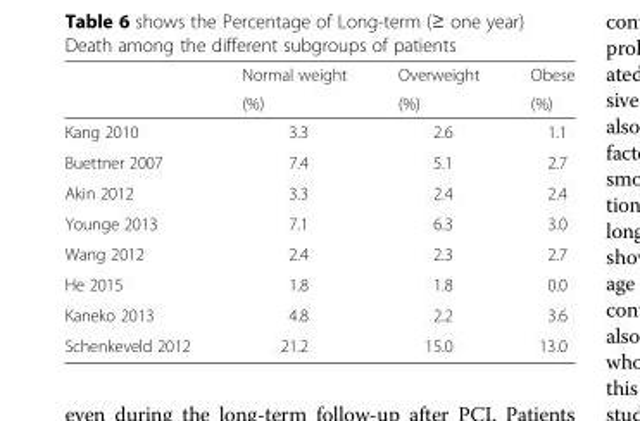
<table><thead><tr><td rowspan="2"></td><td rowspan="2">Normal weight (%)</td><td rowspan="2">Overweight (%)</td><td rowspan="2">Obese (%)</td></tr><tr></tr></thead><tbody><tr><td>Kang 2010</td><td>3.3</td><td>2.6</td><td>1.1</td></tr><tr><td>Buettner 2007</td><td>7.4</td><td>5.1</td><td>2.7</td></tr><tr><td>Akin 2012</td><td>3.3</td><td>2.4</td><td>2.4</td></tr><tr><td>Younge 2013</td><td>7.1</td><td>6.3</td><td>3.0</td></tr><tr><td>Wang 2012</td><td>2.4</td><td>2.3</td><td>2.7</td></tr><tr><td>He 2015</td><td>1.8</td><td>1.8</td><td>0.0</td></tr><tr><td>Kaneko 2013</td><td>4.8</td><td>2.2</td><td>3.6</td></tr><tr><td>Schenkeveld 2012</td><td>21.2</td><td>15.0</td><td>13.0</td></tr></tbody></table>